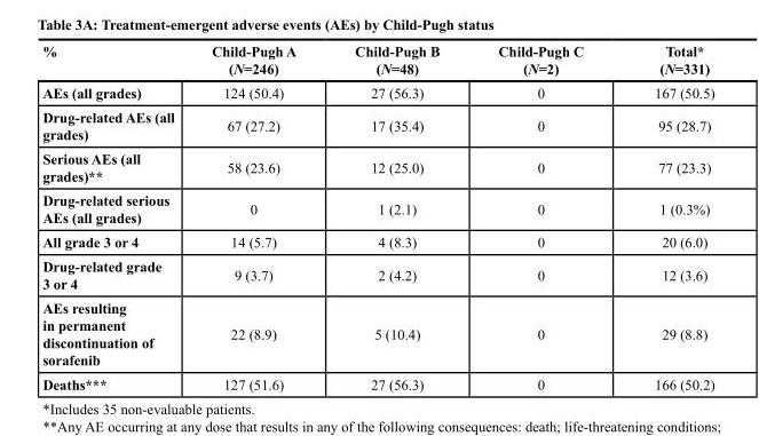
<table><thead><tr><td>%</td><td>Child-Pugh A (N=246)</td><td>Child-Pugh B (N=48)</td><td>Child-Pugh C (N=2)</td><td>Total* (N=331)</td></tr></thead><tbody><tr><td>AEs (all grades)</td><td>124 (50.4)</td><td>27 (56.3)</td><td>0</td><td>167 (50.5)</td></tr><tr><td>Drug-related AEs (all grades)</td><td>67 (27.2)</td><td>17 (35.4)</td><td>0</td><td>95 (28.7)</td></tr><tr><td>Serious AEs (all grades)**</td><td>58 (23.6)</td><td>12 (25.0)</td><td>0</td><td>77 (23.3)</td></tr><tr><td>Drug-related serious AEs (all grades)</td><td>0</td><td>1 (2.1)</td><td>0</td><td>1 (0.3%)</td></tr><tr><td>All grade 3 or 4</td><td>14 (5.7)</td><td>4 (8.3)</td><td>0</td><td>20 (6.0)</td></tr><tr><td>Drug-related grade 3 or 4</td><td>9 (3.7)</td><td>2 (4.2)</td><td>0</td><td>12 (3.6)</td></tr><tr><td>AEs resulting in permanent discontinuation of sorafenib</td><td>22 (8.9)</td><td>5 (10.4)</td><td>0</td><td>29 (8.8)</td></tr><tr><td>Deaths***</td><td>127 (51.6)</td><td>27 (56.3)</td><td>0</td><td>166 (50.2)</td></tr></tbody></table>